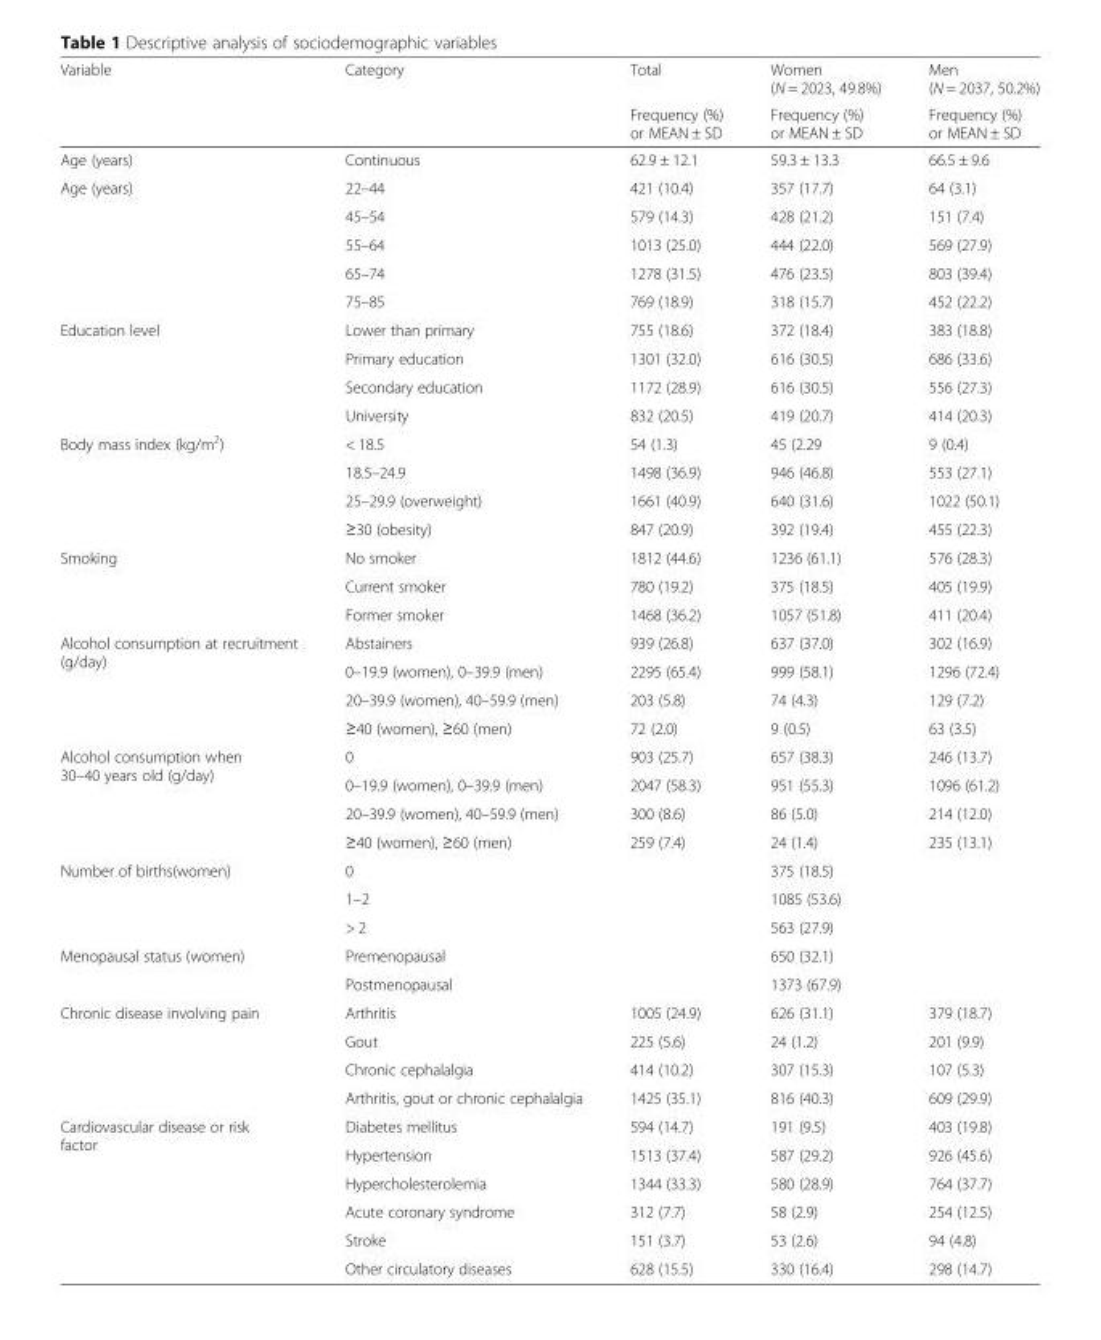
<table><thead><tr><td rowspan="2">Variable</td><td rowspan="2">Category</td><td rowspan="2">Total Frequency (%) or MEAN ± SD</td><td rowspan="2">Women (N = 2023, 49.8%) Frequency (%) or MEAN ± SD</td><td rowspan="2">Men (N = 2037, 50.2%) Frequency (%) or MEAN ± SD</td></tr><tr></tr></thead><tbody><tr><td>Age (years)</td><td>Continuous</td><td>62.9 ± 12.1</td><td>59.3 ± 13.3</td><td>66.5 ± 9.6</td></tr><tr><td rowspan="5">Age (years)</td><td>22–44</td><td>421 (10.4)</td><td>357 (17.7)</td><td>64 (3.1)</td></tr><tr><td>45–54</td><td>579 (14.3)</td><td>428 (21.2)</td><td>151 (7.4)</td></tr><tr><td>55–64</td><td>1013 (25.0)</td><td>444 (22.0)</td><td>569 (27.9)</td></tr><tr><td>65–74</td><td>1278 (31.5)</td><td>476 (23.5)</td><td>803 (39.4)</td></tr><tr><td>75–85</td><td>769 (18.9)</td><td>318 (15.7)</td><td>452 (22.2)</td></tr><tr><td rowspan="4">Education level</td><td>Lower than primary</td><td>755 (18.6)</td><td>372 (18.4)</td><td>383 (18.8)</td></tr><tr><td>Primary education</td><td>1301 (32.0)</td><td>616 (30.5)</td><td>686 (33.6)</td></tr><tr><td>Secondary education</td><td>1172 (28.9)</td><td>616 (30.5)</td><td>556 (27.3)</td></tr><tr><td>University</td><td>832 (20.5)</td><td>419 (20.7)</td><td>414 (20.3)</td></tr><tr><td rowspan="4">Body mass index (kg/m<sup>2</sup>)</td><td>&lt; 18.5</td><td>54 (1.3)</td><td>45 (2.29</td><td>9 (0.4)</td></tr><tr><td>18.5–24.9</td><td>1498 (36.9)</td><td>946 (46.8)</td><td>553 (27.1)</td></tr><tr><td>25–29.9 (overweight)</td><td>1661 (40.9)</td><td>640 (31.6)</td><td>1022 (50.1)</td></tr><tr><td>≥30 (obesity)</td><td>847 (20.9)</td><td>392 (19.4)</td><td>455 (22.3)</td></tr><tr><td rowspan="3">Smoking</td><td>No smoker</td><td>1812 (44.6)</td><td>1236 (61.1)</td><td>576 (28.3)</td></tr><tr><td>Current smoker</td><td>780 (19.2)</td><td>375 (18.5)</td><td>405 (19.9)</td></tr><tr><td>Former smoker</td><td>1468 (36.2)</td><td>1057 (51.8)</td><td>411 (20.4)</td></tr><tr><td rowspan="4">Alcohol consumption at recruitment (g/day)</td><td>Abstainers</td><td>939 (26.8)</td><td>637 (37.0)</td><td>302 (16.9)</td></tr><tr><td>0–19.9 (women), 0–39.9 (men)</td><td>2295 (65.4)</td><td>999 (58.1)</td><td>1296 (72.4)</td></tr><tr><td>20–39.9 (women), 40–59.9 (men)</td><td>203 (5.8)</td><td>74 (4.3)</td><td>129 (7.2)</td></tr><tr><td>≥40 (women), ≥60 (men)</td><td>72 (2.0)</td><td>9 (0.5)</td><td>63 (3.5)</td></tr><tr><td rowspan="4">Alcohol consumption when 30–40 years old (g/day)</td><td>0</td><td>903 (25.7)</td><td>657 (38.3)</td><td>246 (13.7)</td></tr><tr><td>0–19.9 (women), 0–39.9 (men)</td><td>2047 (58.3)</td><td>951 (55.3)</td><td>1096 (61.2)</td></tr><tr><td>20–39.9 (women), 40–59.9 (men)</td><td>300 (8.6)</td><td>86 (5.0)</td><td>214 (12.0)</td></tr><tr><td>≥40 (women), ≥60 (men)</td><td>259 (7.4)</td><td>24 (1.4)</td><td>235 (13.1)</td></tr><tr><td rowspan="3">Number of births(women)</td><td>0</td><td></td><td>375 (18.5)</td><td></td></tr><tr><td>1–2</td><td></td><td>1085 (53.6)</td><td></td></tr><tr><td>&gt; 2</td><td></td><td>563 (27.9)</td><td></td></tr><tr><td rowspan="2">Menopausal status (women)</td><td>Premenopausal</td><td></td><td>650 (32.1)</td><td></td></tr><tr><td>Postmenopausal</td><td></td><td>1373 (67.9)</td><td></td></tr><tr><td rowspan="4">Chronic disease involving pain</td><td>Arthritis</td><td>1005 (24.9)</td><td>626 (31.1)</td><td>379 (18.7)</td></tr><tr><td>Gout</td><td>225 (5.6)</td><td>24 (1.2)</td><td>201 (9.9)</td></tr><tr><td>Chronic cephalalgia</td><td>414 (10.2)</td><td>307 (15.3)</td><td>107 (5.3)</td></tr><tr><td>Arthritis, gout or chronic cephalalgia</td><td>1425 (35.1)</td><td>816 (40.3)</td><td>609 (29.9)</td></tr><tr><td rowspan="6">Cardiovascular disease or risk factor</td><td>Diabetes mellitus</td><td>594 (14.7)</td><td>191 (9.5)</td><td>403 (19.8)</td></tr><tr><td>Hypertension</td><td>1513 (37.4)</td><td>587 (29.2)</td><td>926 (45.6)</td></tr><tr><td>Hypercholesterolemia</td><td>1344 (33.3)</td><td>580 (28.9)</td><td>764 (37.7)</td></tr><tr><td>Acute coronary syndrome</td><td>312 (7.7)</td><td>58 (2.9)</td><td>254 (12.5)</td></tr><tr><td>Stroke</td><td>151 (3.7)</td><td>53 (2.6)</td><td>94 (4.8)</td></tr><tr><td>Other circulatory diseases</td><td>628 (15.5)</td><td>330 (16.4)</td><td>298 (14.7)</td></tr></tbody></table>